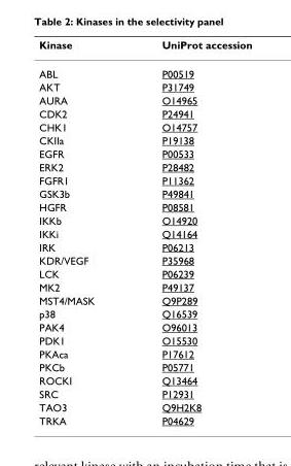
<table><thead><tr><td>Kinase</td><td>UniProt accession</td></tr></thead><tbody><tr><td>ABL</td><td>P00519</td></tr><tr><td>AKT</td><td>P31749</td></tr><tr><td>AURA</td><td>O14965</td></tr><tr><td>CDK2</td><td>P24941</td></tr><tr><td>CHK1</td><td>O14757</td></tr><tr><td>CKIIa</td><td>P19138</td></tr><tr><td>EGFR</td><td>P00533</td></tr><tr><td>ERK2</td><td>P28482</td></tr><tr><td>FGFR1</td><td>P11362</td></tr><tr><td>GSK3b</td><td>P49841</td></tr><tr><td>HGFR</td><td>P08581</td></tr><tr><td>IKKb</td><td>O14920</td></tr><tr><td>IKKi</td><td>Q14164</td></tr><tr><td>IRK</td><td>P06213</td></tr><tr><td>KDR/VEGF</td><td>P35968</td></tr><tr><td>LCK</td><td>P06239</td></tr><tr><td>MK2</td><td>P49137</td></tr><tr><td>MST4/MASK</td><td>Q9P289</td></tr><tr><td>p38</td><td>Q16539</td></tr><tr><td>PAK4</td><td>O96013</td></tr><tr><td>PDK1</td><td>O15530</td></tr><tr><td>PKAca</td><td>P17612</td></tr><tr><td>PKCb</td><td>P05771</td></tr><tr><td>ROCKI</td><td>Q13464</td></tr><tr><td>SRC</td><td>P12931</td></tr><tr><td>TAO3</td><td>Q9H2K8</td></tr><tr><td>TRKA</td><td>P04629</td></tr></tbody></table>